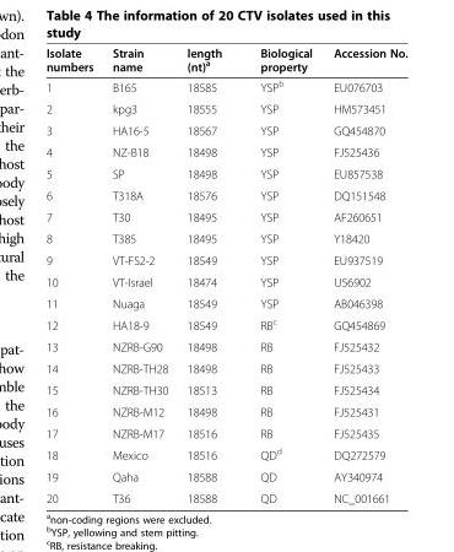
<table><thead><tr><td>Isolate numbers</td><td>Strain name</td><td>length (nt)<sup>a</sup></td><td>Biological property</td><td>Accession No.</td></tr></thead><tbody><tr><td>1</td><td>B165</td><td>18585</td><td>YSP<sup>b</sup></td><td>EU076703</td></tr><tr><td>2</td><td>kpg3</td><td>18555</td><td>YSP</td><td>HM573451</td></tr><tr><td>3</td><td>HA16-5</td><td>18567</td><td>YSP</td><td>GQ454870</td></tr><tr><td>4</td><td>NZ-B18</td><td>18498</td><td>YSP</td><td>FJ525436</td></tr><tr><td>5</td><td>SP</td><td>18498</td><td>YSP</td><td>EU857538</td></tr><tr><td>6</td><td>T318A</td><td>18576</td><td>YSP</td><td>DQ151548</td></tr><tr><td>7</td><td>T30</td><td>18495</td><td>YSP</td><td>AF260651</td></tr><tr><td>8</td><td>T385</td><td>18495</td><td>YSP</td><td>Y18420</td></tr><tr><td>9</td><td>VT-FS2-2</td><td>18549</td><td>YSP</td><td>EU937519</td></tr><tr><td>10</td><td>VT-Israel</td><td>18474</td><td>YSP</td><td>U56902</td></tr><tr><td>11</td><td>Nuaga</td><td>18549</td><td>YSP</td><td>AB046398</td></tr><tr><td>12</td><td>HA18-9</td><td>18549</td><td>RB<sup>c</sup></td><td>GQ454869</td></tr><tr><td>13</td><td>NZRB-G90</td><td>18498</td><td>RB</td><td>FJ525432</td></tr><tr><td>14</td><td>NZRB-TH28</td><td>18498</td><td>RB</td><td>FJ525433</td></tr><tr><td>15</td><td>NZRB-TH30</td><td>18513</td><td>RB</td><td>FJ525434</td></tr><tr><td>16</td><td>NZRB-M12</td><td>18498</td><td>RB</td><td>FJ525431</td></tr><tr><td>17</td><td>NZRB-M17</td><td>18516</td><td>RB</td><td>FJ525435</td></tr><tr><td>18</td><td>Mexico</td><td>18516</td><td>QD<sup>d</sup></td><td>DQ272579</td></tr><tr><td>19</td><td>Qaha</td><td>18588</td><td>QD</td><td>AY340974</td></tr><tr><td>20</td><td>T36</td><td>18588</td><td>QD</td><td>NC_001661</td></tr></tbody></table>